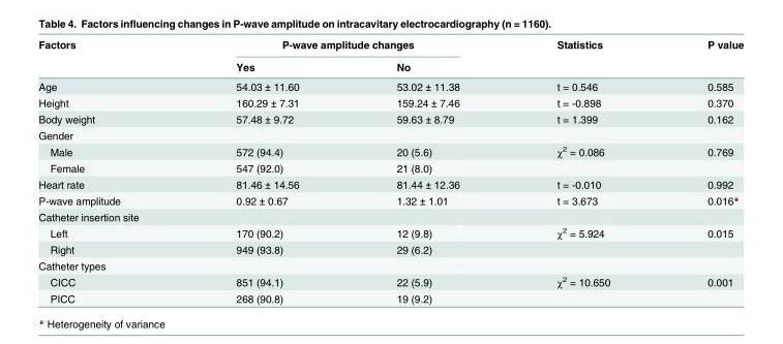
<table><thead><tr><td rowspan="2">Factors</td><td colspan="2">P-wave amplitude changes</td><td rowspan="2">Statistics</td><td rowspan="2">P value</td></tr><tr><td>Yes</td><td>No</td></tr></thead><tbody><tr><td>Age</td><td>54.03 ± 11.60</td><td>53.02 ± 11.38</td><td>t = 0.546</td><td>0.585</td></tr><tr><td>Height</td><td>160.29 ± 7.31</td><td>159.24 ± 7.46</td><td>t = -0.898</td><td>0.370</td></tr><tr><td>Body weight</td><td>57.48 ± 9.72</td><td>59.63 ± 8.79</td><td>t = 1.399</td><td>0.162</td></tr><tr><td colspan="5">Gender</td></tr><tr><td>Male</td><td>572 (94.4)</td><td>20 (5.6)</td><td>χ<sup>2</sup> = 0.086</td><td>0.769</td></tr><tr><td>Female</td><td>547 (92.0)</td><td>21 (8.0)</td><td></td><td></td></tr><tr><td>Heart rate</td><td>81.46 ± 14.56</td><td>81.44 ± 12.36</td><td>t = -0.010</td><td>0.992</td></tr><tr><td>P-wave amplitude</td><td>0.92 ± 0.67</td><td>1.32 ± 1.01</td><td>t = 3.673</td><td>0.016*</td></tr><tr><td colspan="5">Catheter insertion site</td></tr><tr><td>Left</td><td>170 (90.2)</td><td>12 (9.8)</td><td>χ<sup>2</sup> = 5.924</td><td>0.015</td></tr><tr><td>Right</td><td>949 (93.8)</td><td>29 (6.2)</td><td></td><td></td></tr><tr><td colspan="5">Catheter types</td></tr><tr><td>CICC</td><td>851 (94.1)</td><td>22 (5.9)</td><td>χ<sup>2</sup> = 10.650</td><td>0.001</td></tr><tr><td>PICC</td><td>268 (90.8)</td><td>19 (9.2)</td><td></td><td></td></tr></tbody></table>